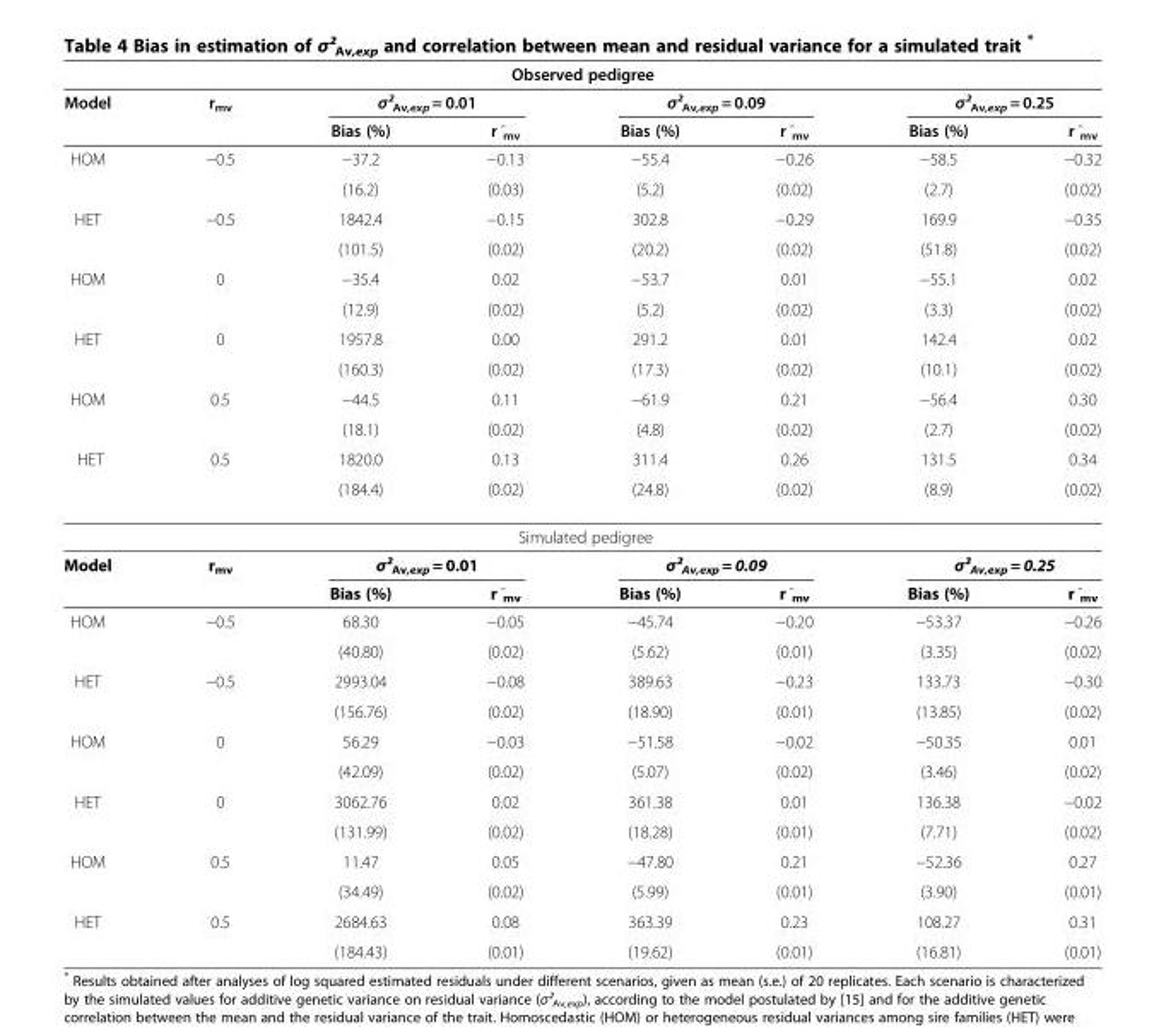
<table><thead><tr><td colspan="8">Observed pedigree</td></tr><tr><td rowspan="2">Model</td><td rowspan="2">rmv</td><td colspan="2">σ²<sub>Av,exp</sub> = 0.01</td><td colspan="2">σ²<sub>Av,exp</sub> = 0.09</td><td colspan="2">σ²<sub>Av,exp</sub> = 0.25</td></tr><tr><td>Bias (%)</td><td>r^mv</td><td>Bias (%)</td><td>r^mv</td><td>Bias (%)</td><td>r^mv</td></tr></thead><tbody><tr><td rowspan="2">HOM</td><td rowspan="2">−0.5</td><td>−37.2</td><td>−0.13</td><td>−55.4</td><td>−0.26</td><td>−58.5</td><td>−0.32</td></tr><tr><td>(16.2)</td><td>(0.03)</td><td>(5.2)</td><td>(0.02)</td><td>(2.7)</td><td>(0.02)</td></tr><tr><td rowspan="2">HET</td><td rowspan="2">−0.5</td><td>1842.4</td><td>−0.15</td><td>302.8</td><td>−0.29</td><td>169.9</td><td>−0.35</td></tr><tr><td>(101.5)</td><td>(0.02)</td><td>(20.2)</td><td>(0.02)</td><td>(51.8)</td><td>(0.02)</td></tr><tr><td rowspan="2">HOM</td><td rowspan="2">0</td><td>−35.4</td><td>0.02</td><td>−53.7</td><td>0.01</td><td>−55.1</td><td>0.02</td></tr><tr><td>(12.9)</td><td>(0.02)</td><td>(5.2)</td><td>(0.02)</td><td>(3.3)</td><td>(0.02)</td></tr><tr><td rowspan="2">HET</td><td rowspan="2">0</td><td>1957.8</td><td>0.00</td><td>291.2</td><td>0.01</td><td>142.4</td><td>0.02</td></tr><tr><td>(160.3)</td><td>(0.02)</td><td>(17.3)</td><td>(0.02)</td><td>(10.1)</td><td>(0.02)</td></tr><tr><td rowspan="2">HOM</td><td rowspan="2">0.5</td><td>−44.5</td><td>0.11</td><td>−61.9</td><td>0.21</td><td>−56.4</td><td>0.30</td></tr><tr><td>(18.1)</td><td>(0.02)</td><td>(4.8)</td><td>(0.02)</td><td>(2.7)</td><td>(0.02)</td></tr><tr><td rowspan="2">HET</td><td rowspan="2">0.5</td><td>1820.0</td><td>0.13</td><td>311.4</td><td>0.26</td><td>131.5</td><td>0.34</td></tr><tr><td>(184.4)</td><td>(0.02)</td><td>(24.8)</td><td>(0.02)</td><td>(8.9)</td><td>(0.02)</td></tr><tr><td colspan="8">Simulated pedigree</td></tr><tr><td rowspan="2">Model</td><td rowspan="2">rmv</td><td colspan="2">σ²<sub>Av,exp</sub> = 0.01</td><td colspan="2">σ²<sub>Av,exp</sub> = 0.09</td><td colspan="2">σ²<sub>Av,exp</sub> = 0.25</td></tr><tr><td>Bias (%)</td><td>r^mv</td><td>Bias (%)</td><td>r^mv</td><td>Bias (%)</td><td>r^mv</td></tr><tr><td rowspan="2">HOM</td><td rowspan="2">−0.5</td><td>68.30</td><td>−0.05</td><td>−45.74</td><td>−0.20</td><td>−53.37</td><td>−0.26</td></tr><tr><td>(40.80)</td><td>(0.02)</td><td>(5.62)</td><td>(0.01)</td><td>(3.35)</td><td>(0.02)</td></tr><tr><td rowspan="2">HET</td><td rowspan="2">−0.5</td><td>2993.04</td><td>−0.08</td><td>389.63</td><td>−0.23</td><td>133.73</td><td>−0.30</td></tr><tr><td>(156.76)</td><td>(0.02)</td><td>(18.90)</td><td>(0.01)</td><td>(13.85)</td><td>(0.02)</td></tr><tr><td rowspan="2">HOM</td><td rowspan="2">0</td><td>56.29</td><td>−0.03</td><td>−51.58</td><td>−0.02</td><td>−50.35</td><td>0.01</td></tr><tr><td>(42.09)</td><td>(0.02)</td><td>(5.07)</td><td>(0.02)</td><td>(3.46)</td><td>(0.02)</td></tr><tr><td rowspan="2">HET</td><td rowspan="2">0</td><td>3062.76</td><td>0.02</td><td>361.38</td><td>0.01</td><td>136.38</td><td>−0.02</td></tr><tr><td>(131.99)</td><td>(0.02)</td><td>(18.28)</td><td>(0.01)</td><td>(7.71)</td><td>(0.02)</td></tr><tr><td rowspan="2">HOM</td><td rowspan="2">0.5</td><td>11.47</td><td>0.05</td><td>−47.80</td><td>0.21</td><td>−52.36</td><td>0.27</td></tr><tr><td>(34.49)</td><td>(0.02)</td><td>(5.99)</td><td>(0.01)</td><td>(3.90)</td><td>(0.01)</td></tr><tr><td rowspan="2">HET</td><td rowspan="2">0.5</td><td>2684.63</td><td>0.08</td><td>363.39</td><td>0.23</td><td>108.27</td><td>0.31</td></tr><tr><td>(184.43)</td><td>(0.01)</td><td>(19.62)</td><td>(0.01)</td><td>(16.81)</td><td>(0.01)</td></tr></tbody></table>